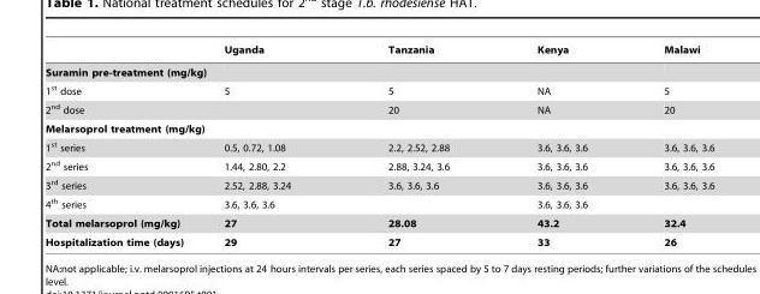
<table><thead><tr><td></td><td>Uganda</td><td>Tanzania</td><td>Kenya</td><td>Malawi</td></tr></thead><tbody><tr><td colspan="5">Suramin pre-treatment (mg/kg)</td></tr><tr><td>1<sup>st</sup> dose</td><td>5</td><td>5</td><td>NA</td><td>5</td></tr><tr><td>2<sup>nd</sup> dose</td><td></td><td>20</td><td>NA</td><td>20</td></tr><tr><td colspan="5">Melarsoprol treatment (mg/kg)</td></tr><tr><td>1<sup>st</sup> series</td><td>0.5, 0.72, 1.08</td><td>2.2, 2.52, 2.88</td><td>3.6, 3.6, 3.6</td><td>3.6, 3.6, 3.6</td></tr><tr><td>2<sup>nd</sup> series</td><td>1.44, 2.80, 2.2</td><td>2.88, 3.24, 3.6</td><td>3.6, 3.6, 3.6</td><td>3.6, 3.6, 3.6</td></tr><tr><td>3<sup>rd</sup> series</td><td>2.52, 2.88, 3.24</td><td>3.6, 3.6, 3.6</td><td>3.6, 3.6, 3.6</td><td>3.6, 3.6, 3.6</td></tr><tr><td>4<sup>th</sup> series</td><td>3.6, 3.6, 3.6</td><td></td><td>3.6, 3.6, 3.6</td><td></td></tr><tr><td>Total melarsoprol (mg/kg)</td><td>27</td><td>28.08</td><td>43.2</td><td>32.4</td></tr><tr><td>Hospitalization time (days)</td><td>29</td><td>27</td><td>33</td><td>26</td></tr></tbody></table>